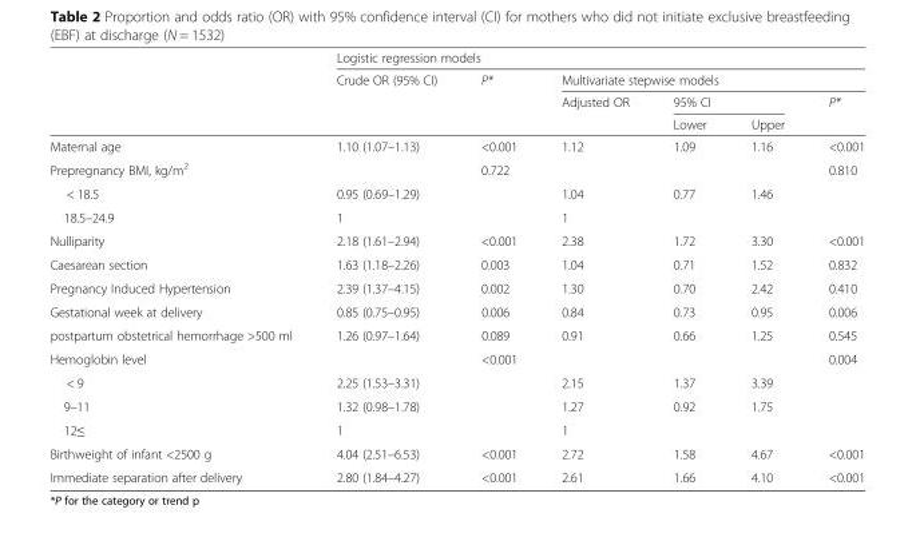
<table><thead><tr><td rowspan="4"></td><td colspan="6">Logistic regression models</td></tr><tr><td rowspan="3">Crude OR (95% CI)</td><td rowspan="3">P*</td><td colspan="4">Multivariate stepwise models</td></tr><tr><td rowspan="2">Adjusted OR</td><td colspan="2">95% CI</td><td rowspan="2">P*</td></tr><tr><td>Lower</td><td>Upper</td></tr></thead><tbody><tr><td>Maternal age</td><td>1.10 (1.07–1.13)</td><td>&lt;0.001</td><td>1.12</td><td>1.09</td><td>1.16</td><td>&lt;0.001</td></tr><tr><td>Prepregnancy BMI, kg/m<sup>2</sup></td><td></td><td>0.722</td><td></td><td></td><td></td><td>0.810</td></tr><tr><td>&lt; 18.5</td><td>0.95 (0.69–1.29)</td><td></td><td>1.04</td><td>0.77</td><td>1.46</td><td></td></tr><tr><td>18.5–24.9</td><td>1</td><td></td><td colspan="3">1</td><td></td></tr><tr><td>Nulliparity</td><td>2.18 (1.61–2.94)</td><td>&lt;0.001</td><td>2.38</td><td>1.72</td><td>3.30</td><td>&lt;0.001</td></tr><tr><td>Caesarean section</td><td>1.63 (1.18–2.26)</td><td>0.003</td><td>1.04</td><td>0.71</td><td>1.52</td><td>0.832</td></tr><tr><td>Pregnancy Induced Hypertension</td><td>2.39 (1.37–4.15)</td><td>0.002</td><td>1.30</td><td>0.70</td><td>2.42</td><td>0.410</td></tr><tr><td>Gestational week at delivery</td><td>0.85 (0.75–0.95)</td><td>0.006</td><td>0.84</td><td>0.73</td><td>0.95</td><td>0.006</td></tr><tr><td>postpartum obstetrical hemorrhage &gt;500 ml</td><td>1.26 (0.97–1.64)</td><td>0.089</td><td>0.91</td><td>0.66</td><td>1.25</td><td>0.545</td></tr><tr><td>Hemoglobin level</td><td></td><td>&lt;0.001</td><td></td><td></td><td></td><td>0.004</td></tr><tr><td>&lt; 9</td><td>2.25 (1.53–3.31)</td><td></td><td>2.15</td><td>1.37</td><td>3.39</td><td></td></tr><tr><td>9–11</td><td>1.32 (0.98–1.78)</td><td></td><td>1.27</td><td>0.92</td><td>1.75</td><td></td></tr><tr><td>12≤</td><td>1</td><td></td><td colspan="3">1</td><td></td></tr><tr><td>Birthweight of infant &lt;2500 g</td><td>4.04 (2.51–6.53)</td><td>&lt;0.001</td><td>2.72</td><td>1.58</td><td>4.67</td><td>&lt;0.001</td></tr><tr><td>Immediate separation after delivery</td><td>2.80 (1.84–4.27)</td><td>&lt;0.001</td><td>2.61</td><td>1.66</td><td>4.10</td><td>&lt;0.001</td></tr></tbody></table>